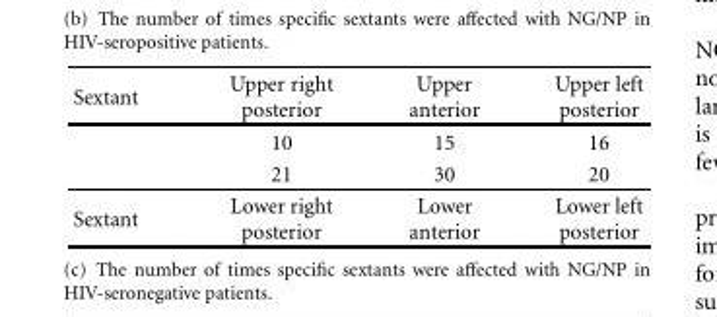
<table><thead><tr><td>Sextant</td><td>Upper right posterior</td><td>Upper anterior</td><td>Upper left posterior</td></tr></thead><tbody><tr><td></td><td>10</td><td>15</td><td>16</td></tr><tr><td></td><td>21</td><td>30</td><td>20</td></tr><tr><td>Sextant</td><td>Lower right posterior</td><td>Lower anterior</td><td>Lower left posterior</td></tr></tbody></table>